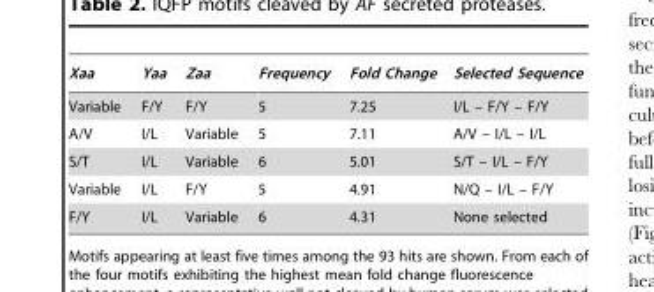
<table><thead><tr><td>Xaa</td><td>Yaa</td><td>Zaa</td><td>Frequency</td><td>Fold Change</td><td>Selected Sequence</td></tr></thead><tbody><tr><td>Variable</td><td>F/Y</td><td>F/Y</td><td>5</td><td>7.25</td><td>I/L – F/Y – F/Y</td></tr><tr><td>A/V</td><td>I/L</td><td>Variable</td><td>5</td><td>7.11</td><td>A/V – I/L – I/L</td></tr><tr><td>S/T</td><td>I/L</td><td>Variable</td><td>6</td><td>5.01</td><td>S/T – I/L – F/Y</td></tr><tr><td>Variable</td><td>I/L</td><td>F/Y</td><td>5</td><td>4.91</td><td>N/Q – I/L – F/Y</td></tr><tr><td>F/Y</td><td>I/L</td><td>Variable</td><td>6</td><td>4.31</td><td>None selected</td></tr></tbody></table>